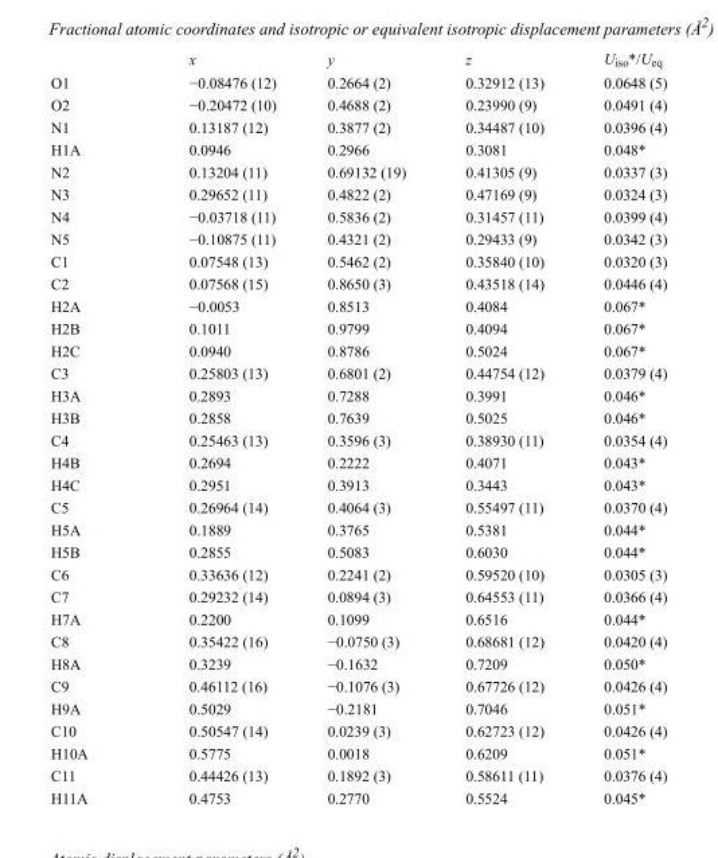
<table><thead><tr><td></td><td>x</td><td>y</td><td>z</td><td>U<sub>iso</sub>*/U<sub>eq</sub></td></tr></thead><tbody><tr><td>O1</td><td>−0.08476 (12)</td><td>0.2664 (2)</td><td>0.32912 (13)</td><td>0.0648 (5)</td></tr><tr><td>O2</td><td>−0.20472 (10)</td><td>0.4688 (2)</td><td>0.23990 (9)</td><td>0.0491 (4)</td></tr><tr><td>N1</td><td>0.13187 (12)</td><td>0.3877 (2)</td><td>0.34487 (10)</td><td>0.0396 (4)</td></tr><tr><td>H1A</td><td>0.0946</td><td>0.2966</td><td>0.3081</td><td>0.048*</td></tr><tr><td>N2</td><td>0.13204 (11)</td><td>0.69132 (19)</td><td>0.41305 (9)</td><td>0.0337 (3)</td></tr><tr><td>N3</td><td>0.29652 (11)</td><td>0.4822 (2)</td><td>0.47169 (9)</td><td>0.0324 (3)</td></tr><tr><td>N4</td><td>−0.03718 (11)</td><td>0.5836 (2)</td><td>0.31457 (11)</td><td>0.0399 (4)</td></tr><tr><td>N5</td><td>−0.10875 (11)</td><td>0.4321 (2)</td><td>0.29433 (9)</td><td>0.0342 (3)</td></tr><tr><td>C1</td><td>0.07548 (13)</td><td>0.5462 (2)</td><td>0.35840 (10)</td><td>0.0320 (3)</td></tr><tr><td>C2</td><td>0.07568 (15)</td><td>0.8650 (3)</td><td>0.43518 (14)</td><td>0.0446 (4)</td></tr><tr><td>H2A</td><td>−0.0053</td><td>0.8513</td><td>0.4084</td><td>0.067*</td></tr><tr><td>H2B</td><td>0.1011</td><td>0.9799</td><td>0.4094</td><td>0.067*</td></tr><tr><td>H2C</td><td>0.0940</td><td>0.8786</td><td>0.5024</td><td>0.067*</td></tr><tr><td>C3</td><td>0.25803 (13)</td><td>0.6801 (2)</td><td>0.44754 (12)</td><td>0.0379 (4)</td></tr><tr><td>H3A</td><td>0.2893</td><td>0.7288</td><td>0.3991</td><td>0.046*</td></tr><tr><td>H3B</td><td>0.2858</td><td>0.7639</td><td>0.5025</td><td>0.046*</td></tr><tr><td>C4</td><td>0.25463 (13)</td><td>0.3596 (3)</td><td>0.38930 (11)</td><td>0.0354 (4)</td></tr><tr><td>H4B</td><td>0.2694</td><td>0.2222</td><td>0.4071</td><td>0.043*</td></tr><tr><td>H4C</td><td>0.2951</td><td>0.3913</td><td>0.3443</td><td>0.043*</td></tr><tr><td>C5</td><td>0.26964 (14)</td><td>0.4064 (3)</td><td>0.55497 (11)</td><td>0.0370 (4)</td></tr><tr><td>H5A</td><td>0.1889</td><td>0.3765</td><td>0.5381</td><td>0.044*</td></tr><tr><td>H5B</td><td>0.2855</td><td>0.5083</td><td>0.6030</td><td>0.044*</td></tr><tr><td>C6</td><td>0.33636 (12)</td><td>0.2241 (2)</td><td>0.59520 (10)</td><td>0.0305 (3)</td></tr><tr><td>C7</td><td>0.29232 (14)</td><td>0.0894 (3)</td><td>0.64553 (11)</td><td>0.0366 (4)</td></tr><tr><td>H7A</td><td>0.2200</td><td>0.1099</td><td>0.6516</td><td>0.044*</td></tr><tr><td>C8</td><td>0.35422 (16)</td><td>−0.0750 (3)</td><td>0.68681 (12)</td><td>0.0420 (4)</td></tr><tr><td>H8A</td><td>0.3239</td><td>−0.1632</td><td>0.7209</td><td>0.050*</td></tr><tr><td>C9</td><td>0.46112 (16)</td><td>−0.1076 (3)</td><td>0.67726 (12)</td><td>0.0426 (4)</td></tr><tr><td>H9A</td><td>0.5029</td><td>−0.2181</td><td>0.7046</td><td>0.051*</td></tr><tr><td>C10</td><td>0.50547 (14)</td><td>0.0239 (3)</td><td>0.62723 (12)</td><td>0.0426 (4)</td></tr><tr><td>H10A</td><td>0.5775</td><td>0.0018</td><td>0.6209</td><td>0.051*</td></tr><tr><td>C11</td><td>0.44426 (13)</td><td>0.1892 (3)</td><td>0.58611 (11)</td><td>0.0376 (4)</td></tr><tr><td>H11A</td><td>0.4753</td><td>0.2770</td><td>0.5524</td><td>0.045*</td></tr></tbody></table>